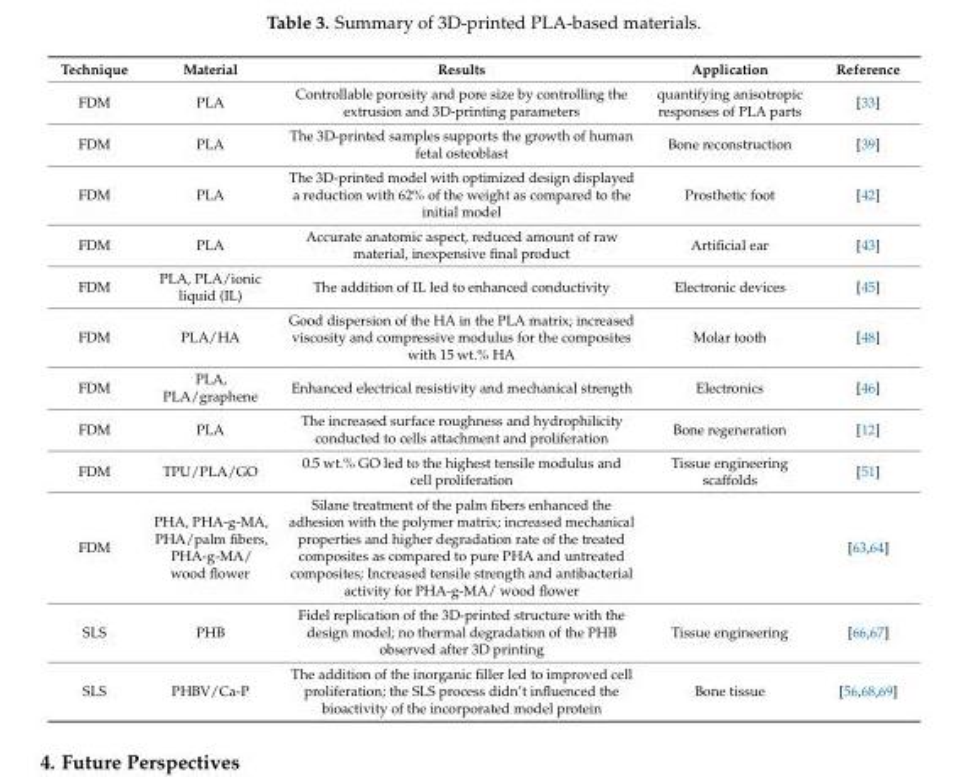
<table><thead><tr><td>Technique</td><td>Material</td><td>Results</td><td>Application</td><td>Reference</td></tr></thead><tbody><tr><td>FDM</td><td>PLA</td><td>Controllable porosity and pore size by controlling the extrusion and 3D-printing parameters</td><td>quantifying anisotropic responses of PLA parts</td><td>[33]</td></tr><tr><td>FDM</td><td>PLA</td><td>The 3D-printed samples supports the growth of human fetal osteoblast</td><td>Bone reconstruction</td><td>[39]</td></tr><tr><td>FDM</td><td>PLA</td><td>The 3D-printed model with optimized design displayed a reduction with 62% of the weight as compared to the initial model</td><td>Prosthetic foot</td><td>[42]</td></tr><tr><td>FDM</td><td>PLA</td><td>Accurate anatomic aspect, reduced amount of raw material, inexpensive final product</td><td>Artificial ear</td><td>[43]</td></tr><tr><td>FDM</td><td>PLA, PLA/ionic liquid (IL)</td><td>The addition of IL led to enhanced conductivity</td><td>Electronic devices</td><td>[45]</td></tr><tr><td>FDM</td><td>PLA/HA</td><td>Good dispersion of the HA in the PLA matrix; increased viscosity and compressive modulus for the composites with 15 wt.% HA</td><td>Molar tooth</td><td>[48]</td></tr><tr><td>FDM</td><td>PLA, PLA/graphene</td><td>Enhanced electrical resistivity and mechanical strength</td><td>Electronics</td><td>[46]</td></tr><tr><td>FDM</td><td>PLA</td><td>The increased surface roughness and hydrophilicity conducted to cells attachment and proliferation</td><td>Bone regeneration</td><td>[12]</td></tr><tr><td>FDM</td><td>TPU/PLA/GO</td><td>0.5 wt.% GO led to the highest tensile modulus and cell proliferation</td><td>Tissue engineering scaffolds</td><td>[51]</td></tr><tr><td>FDM</td><td>PHA, PHA-g-MA, PHA/palm fibers, PHA-g-MA/ wood flower</td><td>Silane treatment of the palm fibers enhanced the adhesion with the polymer matrix; increased mechanical properties and higher degradation rate of the treated composites as compared to pure PHA and untreated composites; Increased tensile strength and antibacterial activity for PHA-g-MA/ wood flower</td><td></td><td>[63,64]</td></tr><tr><td>SLS</td><td>PHB</td><td>Fidel replication of the 3D-printed structure with the design model; no thermal degradation of the PHB observed after 3D printing</td><td>Tissue engineering</td><td>[66,67]</td></tr><tr><td>SLS</td><td>PHBV/Ca-P</td><td>The addition of the inorganic filler led to improved cell proliferation; the SLS process didn’t influenced the bioactivity of the incorporated model protein</td><td>Bone tissue</td><td>[56,68,69]</td></tr></tbody></table>